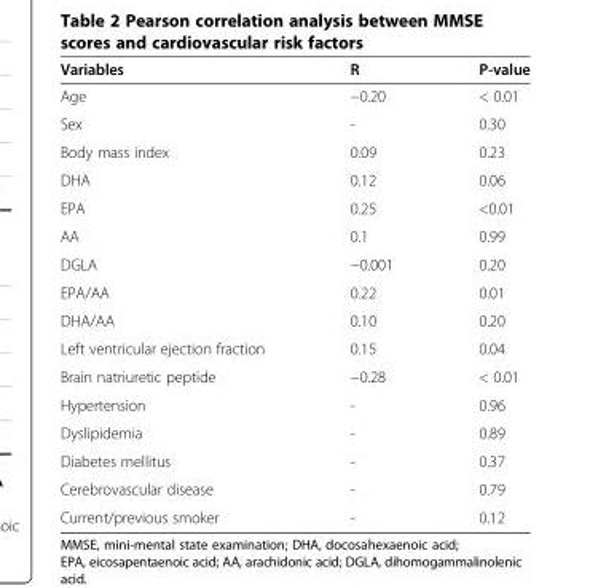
<table><thead><tr><td>Variables</td><td>R</td><td>P-value</td></tr></thead><tbody><tr><td>Age</td><td>−0.20</td><td>&lt; 0.01</td></tr><tr><td>Sex</td><td>-</td><td>0.30</td></tr><tr><td>Body mass index</td><td>0.09</td><td>0.23</td></tr><tr><td>DHA</td><td>0.12</td><td>0.06</td></tr><tr><td>EPA</td><td>0.25</td><td>&lt;0.01</td></tr><tr><td>AA</td><td>0.1</td><td>0.99</td></tr><tr><td>DGLA</td><td>−0.001</td><td>0.20</td></tr><tr><td>EPA/AA</td><td>0.22</td><td>0.01</td></tr><tr><td>DHA/AA</td><td>0.10</td><td>0.20</td></tr><tr><td>Left ventricular ejection fraction</td><td>0.15</td><td>0.04</td></tr><tr><td>Brain natriuretic peptide</td><td>−0.28</td><td>&lt; 0.01</td></tr><tr><td>Hypertension</td><td>-</td><td>0.96</td></tr><tr><td>Dyslipidemia</td><td>-</td><td>0.89</td></tr><tr><td>Diabetes mellitus</td><td>-</td><td>0.37</td></tr><tr><td>Cerebrovascular disease</td><td>-</td><td>0.79</td></tr><tr><td>Current/previous smoker</td><td>-</td><td>0.12</td></tr></tbody></table>